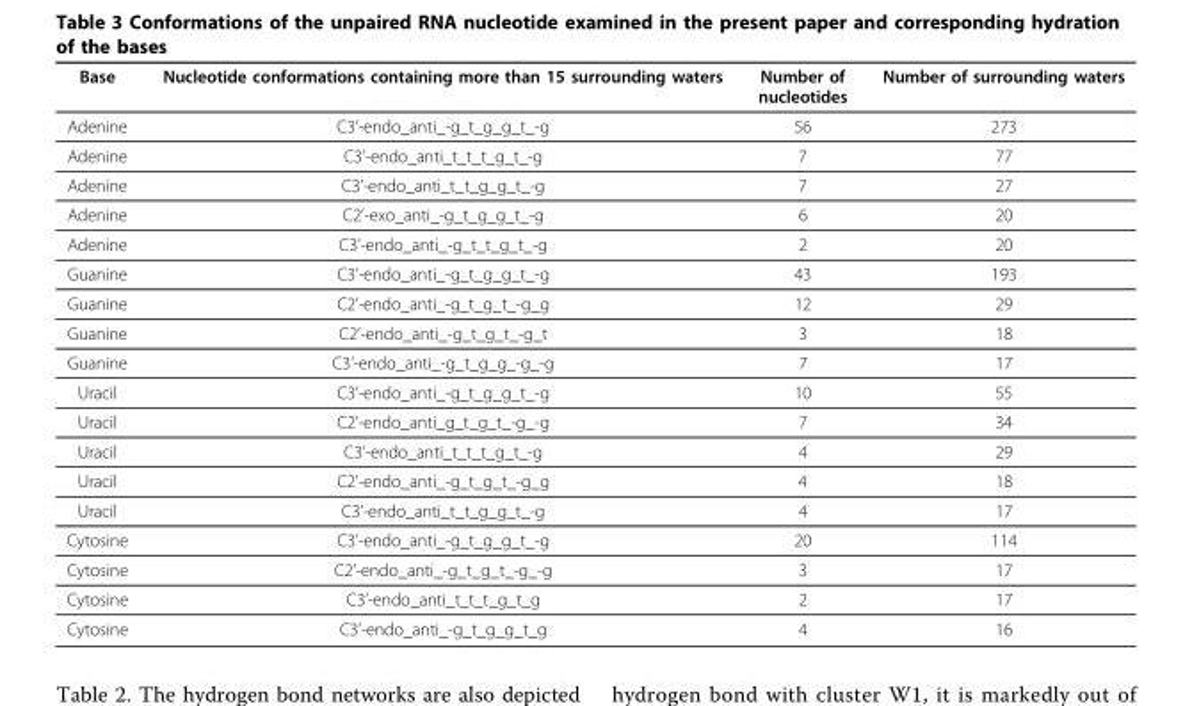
<table><thead><tr><td>Base</td><td>Nucleotide conformations containing more than 15 surrounding waters</td><td>Number of nucleotides</td><td>Number of surrounding waters</td></tr></thead><tbody><tr><td>Adenine</td><td>C3’-endo_anti_-g_t_g_g_t_-g</td><td>56</td><td>273</td></tr><tr><td>Adenine</td><td>C3’-endo_anti_t_t_t_g_t_-g</td><td>7</td><td>77</td></tr><tr><td>Adenine</td><td>C3’-endo_anti_t_t_g_g_t_-g</td><td>7</td><td>27</td></tr><tr><td>Adenine</td><td>C2’-exo_anti_-g_t_g_g_t_-g</td><td>6</td><td>20</td></tr><tr><td>Adenine</td><td>C3’-endo_anti_-g_t_t_g_t_-g</td><td>2</td><td>20</td></tr><tr><td>Guanine</td><td>C3’-endo_anti_-g_t_g_g_t_-g</td><td>43</td><td>193</td></tr><tr><td>Guanine</td><td>C2’-endo_anti_-g_t_g_t_-g_g</td><td>12</td><td>29</td></tr><tr><td>Guanine</td><td>C2’-endo_anti_-g_t_g_t_-g_t</td><td>3</td><td>18</td></tr><tr><td>Guanine</td><td>C3’-endo_anti_-g_t_g_g_-g_-g</td><td>7</td><td>17</td></tr><tr><td>Uracil</td><td>C3’-endo_anti_-g_t_g_g_t_-g</td><td>10</td><td>55</td></tr><tr><td>Uracil</td><td>C2’-endo_anti_g_t_g_t_-g_-g</td><td>7</td><td>34</td></tr><tr><td>Uracil</td><td>C3’-endo_anti_t_t_t_g_t_-g</td><td>4</td><td>29</td></tr><tr><td>Uracil</td><td>C2’-endo_anti_-g_t_g_t_-g_g</td><td>4</td><td>18</td></tr><tr><td>Uracil</td><td>C3’-endo_anti_t_t_g_g_t_-g</td><td>4</td><td>17</td></tr><tr><td>Cytosine</td><td>C3’-endo_anti_-g_t_g_g_t_-g</td><td>20</td><td>114</td></tr><tr><td>Cytosine</td><td>C2’-endo_anti_-g_t_g_t_-g_-g</td><td>3</td><td>17</td></tr><tr><td>Cytosine</td><td>C3’-endo_anti_t_t_t_g_t_g</td><td>2</td><td>17</td></tr><tr><td>Cytosine</td><td>C3’-endo_anti_-g_t_g_g_t_g</td><td>4</td><td>16</td></tr></tbody></table>